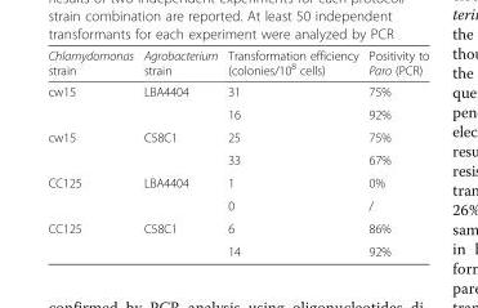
<table><thead><tr><td>Chlamydomonas strain</td><td>Agrobacterium strain</td><td>Transformation efficiency (colonies/10<sup>8</sup> cells)</td><td>Positivity to Paro (PCR)</td></tr></thead><tbody><tr><td rowspan="2">cw15</td><td rowspan="2">LBA4404</td><td>31</td><td>75%</td></tr><tr><td>16</td><td>92%</td></tr><tr><td rowspan="2">cw15</td><td rowspan="2">C58C1</td><td>25</td><td>75%</td></tr><tr><td>33</td><td>67%</td></tr><tr><td rowspan="2">CC125</td><td rowspan="2">LBA4404</td><td>1</td><td>0%</td></tr><tr><td>0</td><td>/</td></tr><tr><td rowspan="2">CC125</td><td rowspan="2">C58C1</td><td>6</td><td>86%</td></tr><tr><td>14</td><td>92%</td></tr></tbody></table>